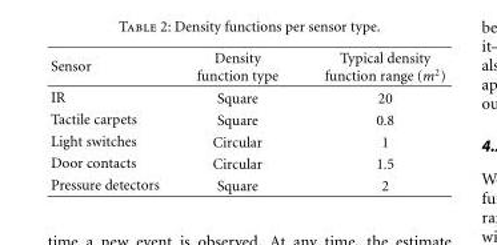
<table><thead><tr><td>Sensor</td><td>Density function type</td><td>Typical density function range (m<sup>2</sup>)</td></tr></thead><tbody><tr><td>IR</td><td>Square</td><td>20</td></tr><tr><td>Tactile carpets</td><td>Square</td><td>0.8</td></tr><tr><td>Light switches</td><td>Circular</td><td>1</td></tr><tr><td>Door contacts</td><td>Circular</td><td>1.5</td></tr><tr><td>Pressure detectors</td><td>Square</td><td>2</td></tr></tbody></table>